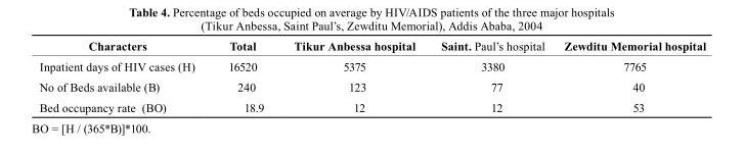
<table><thead><tr><td>characters</td><td>total</td><td>tikur Anbessa hospital</td><td>saint. Paul’s hospital</td><td>Zewditu Memorial hospital</td></tr></thead><tbody><tr><td>Inpatient days of HIV cases (H)</td><td>16520</td><td>5375</td><td>3380</td><td>7765</td></tr><tr><td>No of Beds available (B)</td><td>240</td><td>123</td><td>77</td><td>40</td></tr><tr><td>Bed occupancy rate (BO)</td><td>18.9</td><td>12</td><td>12</td><td>53</td></tr></tbody></table>